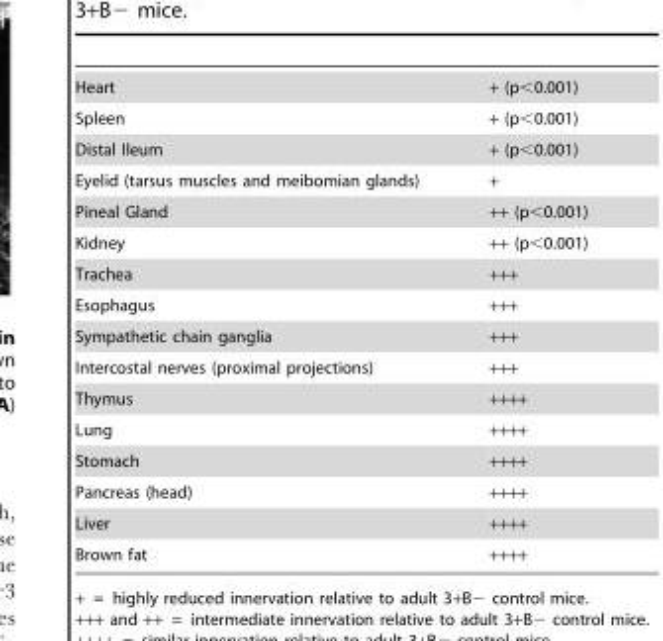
<table><tbody><tr><td>Heart</td><td>+ (p&lt;0.001)</td></tr><tr><td>Spleen</td><td>+ (p&lt;0.001)</td></tr><tr><td>Distal Ileum</td><td>+ (p&lt;0.001)</td></tr><tr><td>Eyelid (tarsus muscles and meibomian glands)</td><td>+</td></tr><tr><td>Pineal Gland</td><td>++ (p&lt;0.001)</td></tr><tr><td>Kidney</td><td>++ (p&lt;0.001)</td></tr><tr><td>Trachea</td><td>+++</td></tr><tr><td>Esophagus</td><td>+++</td></tr><tr><td>Sympathetic chain ganglia</td><td>+++</td></tr><tr><td>Intercostal nerves (proximal projections)</td><td>+++</td></tr><tr><td>Thymus</td><td>++++</td></tr><tr><td>Lung</td><td>++++</td></tr><tr><td>Stomach</td><td>++++</td></tr><tr><td>Pancreas (head)</td><td>++++</td></tr><tr><td>Liver</td><td>++++</td></tr><tr><td>Brown fat</td><td>++++</td></tr></tbody></table>